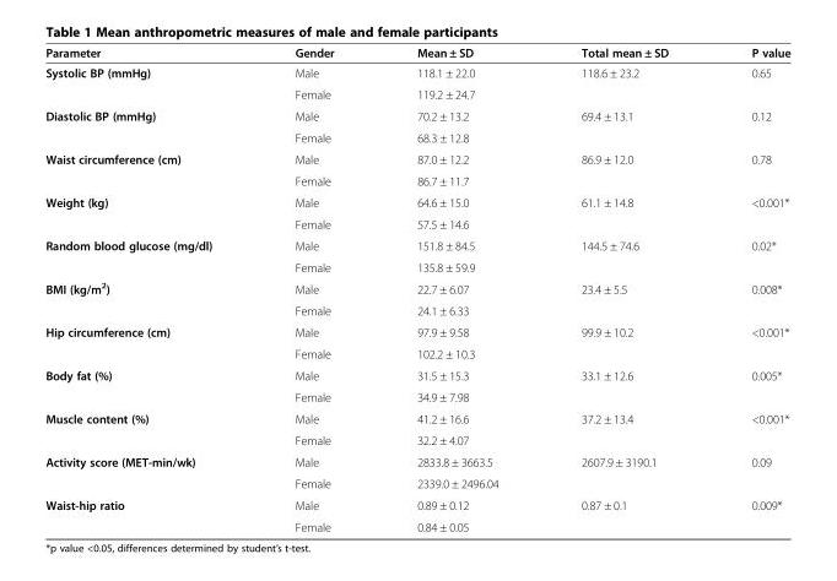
<table><thead><tr><td>Parameter</td><td>Gender</td><td>Mean ± SD</td><td>Total mean ± SD</td><td>P value</td></tr></thead><tbody><tr><td rowspan="2">Systolic BP (mmHg)</td><td>Male</td><td>118.1 ± 22.0</td><td rowspan="2">118.6 ± 23.2</td><td rowspan="2">0.65</td></tr><tr><td>Female</td><td>119.2 ± 24.7</td></tr><tr><td rowspan="2">Diastolic BP (mmHg)</td><td>Male</td><td>70.2 ± 13.2</td><td rowspan="2">69.4 ± 13.1</td><td rowspan="2">0.12</td></tr><tr><td>Female</td><td>68.3 ± 12.8</td></tr><tr><td rowspan="2">Waist circumference (cm)</td><td>Male</td><td>87.0 ± 12.2</td><td rowspan="2">86.9 ± 12.0</td><td rowspan="2">0.78</td></tr><tr><td>Female</td><td>86.7 ± 11.7</td></tr><tr><td rowspan="2">Weight (kg)</td><td>Male</td><td>64.6 ± 15.0</td><td rowspan="2">61.1 ± 14.8</td><td rowspan="2">&lt;0.001*</td></tr><tr><td>Female</td><td>57.5 ± 14.6</td></tr><tr><td rowspan="2">Random blood glucose (mg/dl)</td><td>Male</td><td>151.8 ± 84.5</td><td rowspan="2">144.5 ± 74.6</td><td rowspan="2">0.02*</td></tr><tr><td>Female</td><td>135.8 ± 59.9</td></tr><tr><td rowspan="2">BMI (kg/m<sup>2</sup>)</td><td>Male</td><td>22.7 ± 6.07</td><td rowspan="2">23.4 ± 5.5</td><td rowspan="2">0.008*</td></tr><tr><td>Female</td><td>24.1 ± 6.33</td></tr><tr><td rowspan="2">Hip circumference (cm)</td><td>Male</td><td>97.9 ± 9.58</td><td rowspan="2">99.9 ± 10.2</td><td rowspan="2">&lt;0.001*</td></tr><tr><td>Female</td><td>102.2 ± 10.3</td></tr><tr><td rowspan="2">Body fat (%)</td><td>Male</td><td>31.5 ± 15.3</td><td rowspan="2">33.1 ± 12.6</td><td rowspan="2">0.005*</td></tr><tr><td>Female</td><td>34.9 ± 7.98</td></tr><tr><td rowspan="2">Muscle content (%)</td><td>Male</td><td>41.2 ± 16.6</td><td rowspan="2">37.2 ± 13.4</td><td rowspan="2">&lt;0.001*</td></tr><tr><td>Female</td><td>32.2 ± 4.07</td></tr><tr><td rowspan="2">Activity score (MET-min/wk)</td><td>Male</td><td>2833.8 ± 3663.5</td><td rowspan="2">2607.9 ± 3190.1</td><td rowspan="2">0.09</td></tr><tr><td>Female</td><td>2339.0 ± 2496.04</td></tr><tr><td rowspan="2">Waist-hip ratio</td><td>Male</td><td>0.89 ± 0.12</td><td rowspan="2">0.87 ± 0.1</td><td rowspan="2">0.009*</td></tr><tr><td>Female</td><td>0.84 ± 0.05</td></tr></tbody></table>